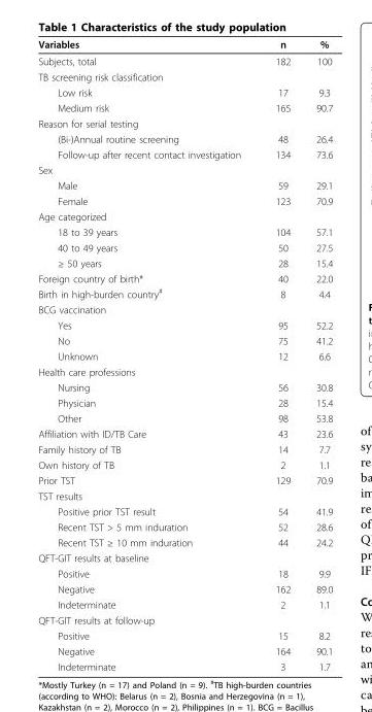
<table><thead><tr><td>Variables</td><td>n</td><td>%</td></tr></thead><tbody><tr><td>Subjects, total</td><td>182</td><td>100</td></tr><tr><td colspan="3">TB screening risk classification</td></tr><tr><td>Low risk</td><td>17</td><td>9.3</td></tr><tr><td>Medium risk</td><td>165</td><td>90.7</td></tr><tr><td colspan="3">Reason for serial testing</td></tr><tr><td>(Bi-)Annual routine screening</td><td>48</td><td>26.4</td></tr><tr><td>Follow-up after recent contact investigation</td><td>134</td><td>73.6</td></tr><tr><td colspan="3">Sex</td></tr><tr><td>Male</td><td>59</td><td>29.1</td></tr><tr><td>Female</td><td>123</td><td>70.9</td></tr><tr><td colspan="3">Age categorized</td></tr><tr><td>18 to 39 years</td><td>104</td><td>57.1</td></tr><tr><td>40 to 49 years</td><td>50</td><td>27.5</td></tr><tr><td>≥ 50 years</td><td>28</td><td>15.4</td></tr><tr><td>Foreign country of birth*</td><td>40</td><td>22.0</td></tr><tr><td>Birth in high-burden country<sup>#</sup></td><td>8</td><td>4.4</td></tr><tr><td colspan="3">BCG vaccination</td></tr><tr><td>Yes</td><td>95</td><td>52.2</td></tr><tr><td>No</td><td>75</td><td>41.2</td></tr><tr><td>Unknown</td><td>12</td><td>6.6</td></tr><tr><td colspan="3">Health care professions</td></tr><tr><td>Nursing</td><td>56</td><td>30.8</td></tr><tr><td>Physician</td><td>28</td><td>15.4</td></tr><tr><td>Other</td><td>98</td><td>53.8</td></tr><tr><td>Affiliation with ID/TB Care</td><td>43</td><td>23.6</td></tr><tr><td>Family history of TB</td><td>14</td><td>7.7</td></tr><tr><td>Own history of TB</td><td>2</td><td>1.1</td></tr><tr><td>Prior TST</td><td>129</td><td>70.9</td></tr><tr><td colspan="3">TST results</td></tr><tr><td>Positive prior TST result</td><td>54</td><td>41.9</td></tr><tr><td>Recent TST &gt; 5 mm induration</td><td>52</td><td>28.6</td></tr><tr><td>Recent TST ≥ 10 mm induration</td><td>44</td><td>24.2</td></tr><tr><td colspan="3">QFT-GIT results at baseline</td></tr><tr><td>Positive</td><td>18</td><td>9.9</td></tr><tr><td>Negative</td><td>162</td><td>89.0</td></tr><tr><td>Indeterminate</td><td>2</td><td>1.1</td></tr><tr><td colspan="3">QFT-GIT results at follow-up</td></tr><tr><td>Positive</td><td>15</td><td>8.2</td></tr><tr><td>Negative</td><td>164</td><td>90.1</td></tr><tr><td>Indeterminate</td><td>3</td><td>1.7</td></tr></tbody></table>